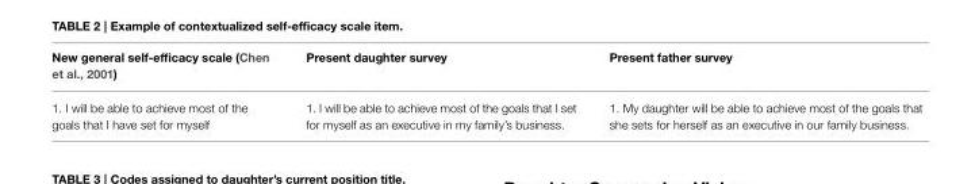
<table><thead><tr><td>New general self-efficacy scale (Chen et al., 2001)</td><td>Present daughter survey</td><td>Present father survey</td></tr></thead><tbody><tr><td>1. I will be able to achieve most of the goals that I have set for myself</td><td>1. I will be able to achieve most of the goals that I set for myself as an executive in my family’s business.</td><td>1. My daughter will be able to achieve most of the goals that she sets for herself as an executive in our family business.</td></tr></tbody></table>